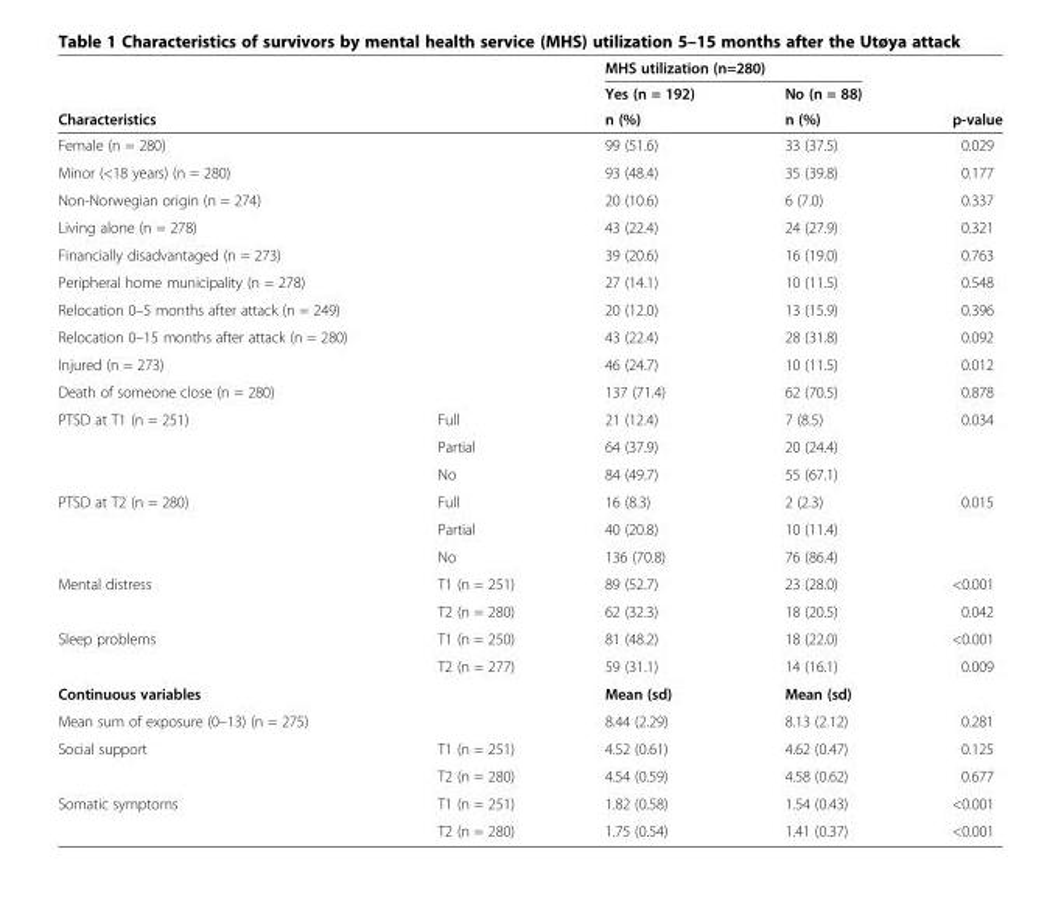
<table><thead><tr><td rowspan="3">Characteristics</td><td rowspan="3"></td><td colspan="2">MHS utilization (n=280)</td><td rowspan="3">p-value</td></tr><tr><td rowspan="2">Yes (n = 192) n (%)</td><td rowspan="2">No (n = 88) n (%)</td></tr><tr></tr></thead><tbody><tr><td>Female (n = 280)</td><td></td><td>99 (51.6)</td><td>33 (37.5)</td><td>0.029</td></tr><tr><td>Minor (&lt;18 years) (n = 280)</td><td></td><td>93 (48.4)</td><td>35 (39.8)</td><td>0.177</td></tr><tr><td>Non-Norwegian origin (n = 274)</td><td></td><td>20 (10.6)</td><td>6 (7.0)</td><td>0.337</td></tr><tr><td>Living alone (n = 278)</td><td></td><td>43 (22.4)</td><td>24 (27.9)</td><td>0.321</td></tr><tr><td>Financially disadvantaged (n = 273)</td><td></td><td>39 (20.6)</td><td>16 (19.0)</td><td>0.763</td></tr><tr><td>Peripheral home municipality (n = 278)</td><td></td><td>27 (14.1)</td><td>10 (11.5)</td><td>0.548</td></tr><tr><td>Relocation 0–5 months after attack (n = 249)</td><td></td><td>20 (12.0)</td><td>13 (15.9)</td><td>0.396</td></tr><tr><td>Relocation 0–15 months after attack (n = 280)</td><td></td><td>43 (22.4)</td><td>28 (31.8)</td><td>0.092</td></tr><tr><td>Injured (n = 273)</td><td></td><td>46 (24.7)</td><td>10 (11.5)</td><td>0.012</td></tr><tr><td>Death of someone close (n = 280)</td><td></td><td>137 (71.4)</td><td>62 (70.5)</td><td>0.878</td></tr><tr><td rowspan="3">PTSD at T1 (n = 251)</td><td>Full</td><td>21 (12.4)</td><td>7 (8.5)</td><td>0.034</td></tr><tr><td>Partial</td><td>64 (37.9)</td><td>20 (24.4)</td><td></td></tr><tr><td>No</td><td>84 (49.7)</td><td>55 (67.1)</td><td></td></tr><tr><td rowspan="3">PTSD at T2 (n = 280)</td><td>Full</td><td>16 (8.3)</td><td>2 (2.3)</td><td>0.015</td></tr><tr><td>Partial</td><td>40 (20.8)</td><td>10 (11.4)</td><td></td></tr><tr><td>No</td><td>136 (70.8)</td><td>76 (86.4)</td><td></td></tr><tr><td rowspan="2">Mental distress</td><td>T1 (n = 251)</td><td>89 (52.7)</td><td>23 (28.0)</td><td>&lt;0.001</td></tr><tr><td>T2 (n = 280)</td><td>62 (32.3)</td><td>18 (20.5)</td><td>0.042</td></tr><tr><td rowspan="2">Sleep problems</td><td>T1 (n = 250)</td><td>81 (48.2)</td><td>18 (22.0)</td><td>&lt;0.001</td></tr><tr><td>T2 (n = 277)</td><td>59 (31.1)</td><td>14 (16.1)</td><td>0.009</td></tr><tr><td>Continuous variables</td><td></td><td>Mean (sd)</td><td>Mean (sd)</td><td></td></tr><tr><td>Mean sum of exposure (0–13) (n = 275)</td><td></td><td>8.44 (2.29)</td><td>8.13 (2.12)</td><td>0.281</td></tr><tr><td rowspan="2">Social support</td><td>T1 (n = 251)</td><td>4.52 (0.61)</td><td>4.62 (0.47)</td><td>0.125</td></tr><tr><td>T2 (n = 280)</td><td>4.54 (0.59)</td><td>4.58 (0.62)</td><td>0.677</td></tr><tr><td rowspan="2">Somatic symptoms</td><td>T1 (n = 251)</td><td>1.82 (0.58)</td><td>1.54 (0.43)</td><td>&lt;0.001</td></tr><tr><td>T2 (n = 280)</td><td>1.75 (0.54)</td><td>1.41 (0.37)</td><td>&lt;0.001</td></tr></tbody></table>